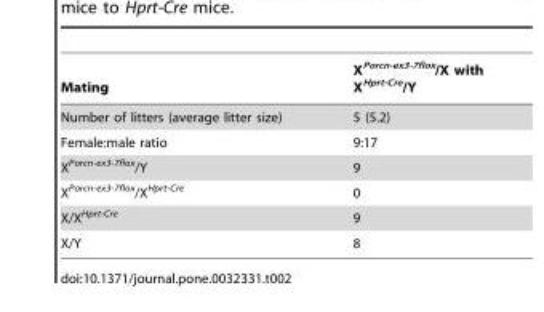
<table><thead><tr><td>Mating</td><td>X<sup>Porcn-ex3-7flox</sup>/X with X<sup>Hprt-Cre</sup>/Y</td></tr></thead><tbody><tr><td>Number of litters (average litter size)</td><td>5 (5.2)</td></tr><tr><td>Female:male ratio</td><td>9:17</td></tr><tr><td>X<sup>Porcn-ex3-7flox</sup>/Y</td><td>9</td></tr><tr><td>X<sup>Porcn-ex3-7flox</sup>/X<sup>Hprt-Cre</sup></td><td>0</td></tr><tr><td>X/X<sup>Hprt-Cre</sup></td><td>9</td></tr><tr><td>X/Y</td><td>8</td></tr></tbody></table>